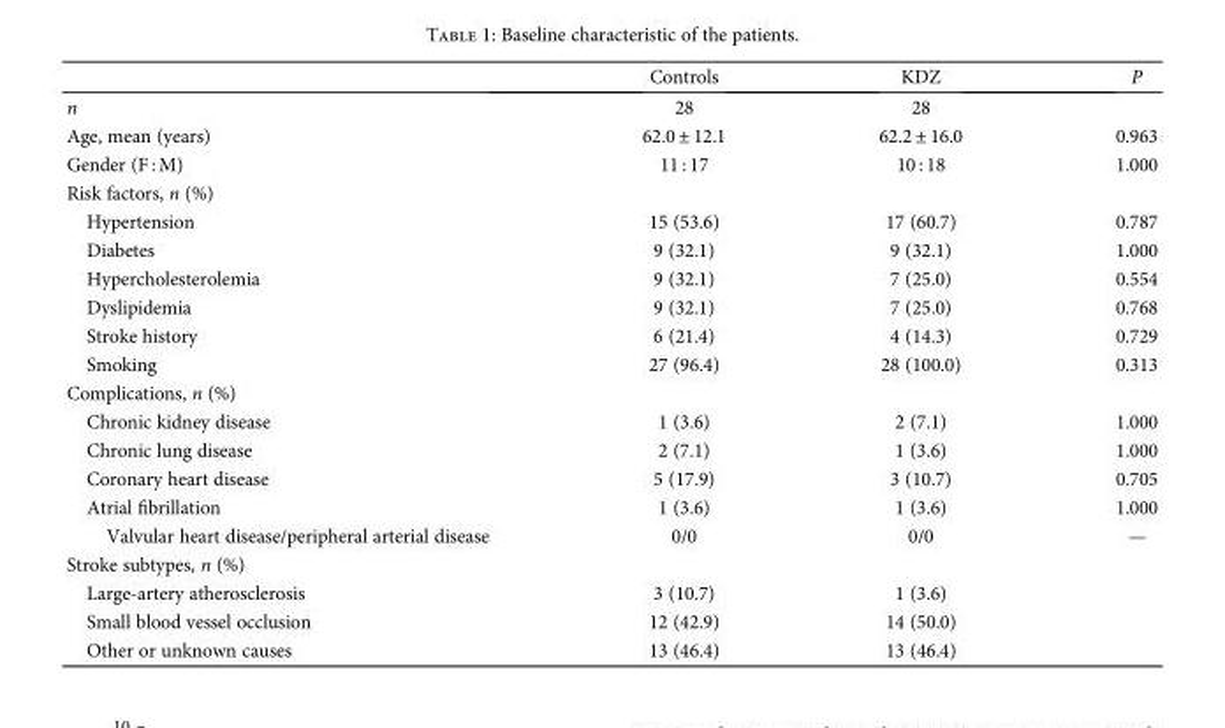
<table><thead><tr><td></td><td>Controls</td><td>KDZ</td><td>P</td></tr></thead><tbody><tr><td>n</td><td>28</td><td>28</td><td></td></tr><tr><td>Age, mean (years)</td><td>62.0 ± 12.1</td><td>62.2 ± 16.0</td><td>0.963</td></tr><tr><td>Gender (F : M)</td><td>11 : 17</td><td>10 : 18</td><td>1.000</td></tr><tr><td colspan="4">Risk factors, n (%)</td></tr><tr><td>Hypertension</td><td>15 (53.6)</td><td>17 (60.7)</td><td>0.787</td></tr><tr><td>Diabetes</td><td>9 (32.1)</td><td>9 (32.1)</td><td>1.000</td></tr><tr><td>Hypercholesterolemia</td><td>9 (32.1)</td><td>7 (25.0)</td><td>0.554</td></tr><tr><td>Dyslipidemia</td><td>9 (32.1)</td><td>7 (25.0)</td><td>0.768</td></tr><tr><td>Stroke history</td><td>6 (21.4)</td><td>4 (14.3)</td><td>0.729</td></tr><tr><td>Smoking</td><td>27 (96.4)</td><td>28 (100.0)</td><td>0.313</td></tr><tr><td colspan="4">Complications, n (%)</td></tr><tr><td>Chronic kidney disease</td><td>1 (3.6)</td><td>2 (7.1)</td><td>1.000</td></tr><tr><td>Chronic lung disease</td><td>2 (7.1)</td><td>1 (3.6)</td><td>1.000</td></tr><tr><td>Coronary heart disease</td><td>5 (17.9)</td><td>3 (10.7)</td><td>0.705</td></tr><tr><td>Atrial fibrillation</td><td>1 (3.6)</td><td>1 (3.6)</td><td>1.000</td></tr><tr><td>Valvular heart disease/peripheral arterial disease</td><td>0/0</td><td>0/0</td><td>—</td></tr><tr><td colspan="4">Stroke subtypes, n (%)</td></tr><tr><td>Large-artery atherosclerosis</td><td>3 (10.7)</td><td>1 (3.6)</td><td></td></tr><tr><td>Small blood vessel occlusion</td><td>12 (42.9)</td><td>14 (50.0)</td><td></td></tr><tr><td>Other or unknown causes</td><td>13 (46.4)</td><td>13 (46.4)</td><td></td></tr></tbody></table>